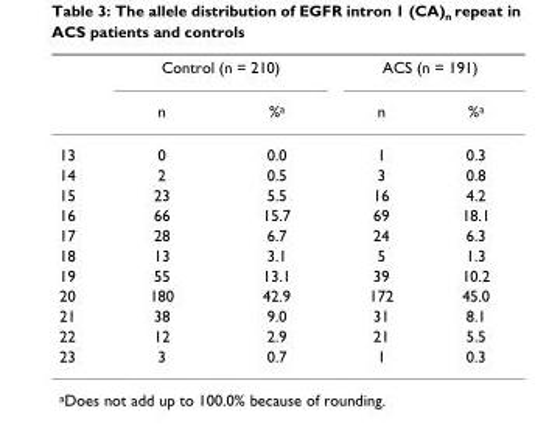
<table><thead><tr><td rowspan="2"></td><td colspan="2">Control (n = 210)</td><td colspan="2">ACS (n = 191)</td></tr><tr><td>n</td><td>%<sup>a</sup></td><td>n</td><td>%<sup>a</sup></td></tr></thead><tbody><tr><td>13</td><td>0</td><td>0.0</td><td>1</td><td>0.3</td></tr><tr><td>14</td><td>2</td><td>0.5</td><td>3</td><td>0.8</td></tr><tr><td>15</td><td>23</td><td>5.5</td><td>16</td><td>4.2</td></tr><tr><td>16</td><td>66</td><td>15.7</td><td>69</td><td>18.1</td></tr><tr><td>17</td><td>28</td><td>6.7</td><td>24</td><td>6.3</td></tr><tr><td>18</td><td>13</td><td>3.1</td><td>5</td><td>1.3</td></tr><tr><td>19</td><td>55</td><td>13.1</td><td>39</td><td>10.2</td></tr><tr><td>20</td><td>180</td><td>42.9</td><td>172</td><td>45.0</td></tr><tr><td>21</td><td>38</td><td>9.0</td><td>31</td><td>8.1</td></tr><tr><td>22</td><td>12</td><td>2.9</td><td>21</td><td>5.5</td></tr><tr><td>23</td><td>3</td><td>0.7</td><td>1</td><td>0.3</td></tr></tbody></table>